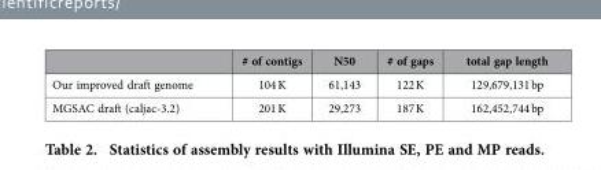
<table><thead><tr><td></td><td># of contigs</td><td>N50</td><td># of gaps</td><td>total gap length</td></tr></thead><tbody><tr><td>Our improved draft genome</td><td>104 K</td><td>61,143</td><td>122 K</td><td>129,679,131 bp</td></tr><tr><td>MGSAC draft (caljac-3.2)</td><td>201 K</td><td>29,273</td><td>187 K</td><td>162,452,744 bp</td></tr></tbody></table>